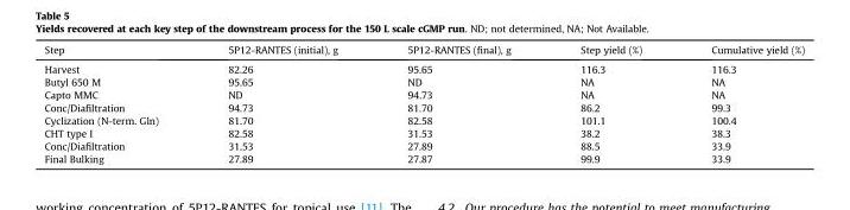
<table><thead><tr><td>Step</td><td>5P12-RANTES (initial), g</td><td>5P12-RANTES (final), g</td><td>Step yield (%)</td><td>Cumulative yield (%)</td></tr></thead><tbody><tr><td>Harvest</td><td>82.26</td><td>95.65</td><td>116.3</td><td>116.3</td></tr><tr><td>Butyl 650 M</td><td>95.65</td><td>ND</td><td>NA</td><td>NA</td></tr><tr><td>Capto MMC</td><td>ND</td><td>94.73</td><td>NA</td><td>NA</td></tr><tr><td>Conc/Diafiltration</td><td>94.73</td><td>81.70</td><td>86.2</td><td>99.3</td></tr><tr><td>Cyclization (N-term. Gln)</td><td>81.70</td><td>82.58</td><td>101.1</td><td>100.4</td></tr><tr><td>CHT type I</td><td>82.58</td><td>31.53</td><td>38.2</td><td>38.3</td></tr><tr><td>Conc/Diafiltration</td><td>31.53</td><td>27.89</td><td>88.5</td><td>33.9</td></tr><tr><td>Final Bulking</td><td>27.89</td><td>27.87</td><td>99.9</td><td>33.9</td></tr></tbody></table>